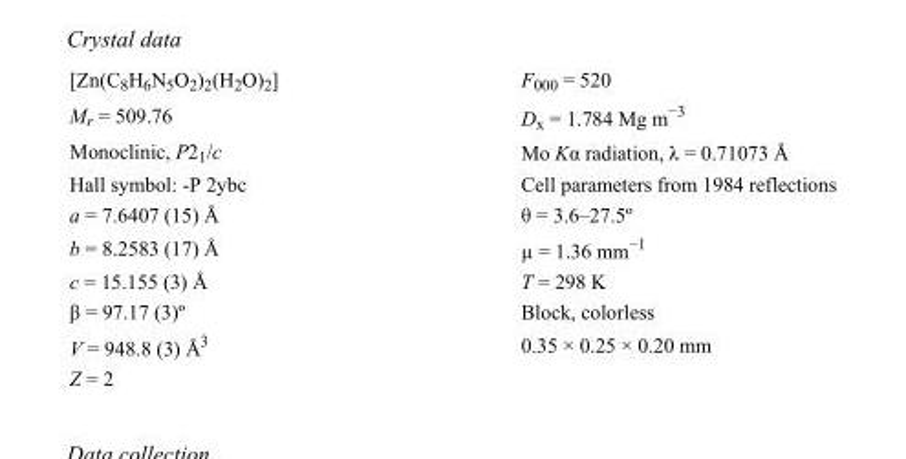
<table><tbody><tr><td>[Zn(C<sub>8</sub>H<sub>6</sub>N<sub>5</sub>O<sub>2</sub>)<sub>2</sub>(H<sub>2</sub>O)<sub>2</sub>]</td><td>F000 = 520</td></tr><tr><td>M<sub>r</sub> = 509.76</td><td>D<sub>x</sub> = 1.784 Mg m<sup>−3</sup></td></tr><tr><td>Monoclinic, P2<sub>1</sub>/c</td><td>Mo Kα radiation, λ = 0.71073 Å</td></tr><tr><td>Hall symbol: -P 2ybc</td><td>Cell parameters from 1984 reflections</td></tr><tr><td>a = 7.6407 (15) Å</td><td>θ = 3.6–27.5º</td></tr><tr><td>b = 8.2583 (17) Å</td><td>µ = 1.36 mm<sup>−1</sup></td></tr><tr><td>c = 15.155 (3) Å</td><td>T = 298 K</td></tr><tr><td>β = 97.17 (3)º</td><td>Block, colorless</td></tr><tr><td>V = 948.8 (3) Å<sup>3</sup></td><td>0.35 × 0.25 × 0.20 mm</td></tr><tr><td>Z = 2</td><td></td></tr></tbody></table>